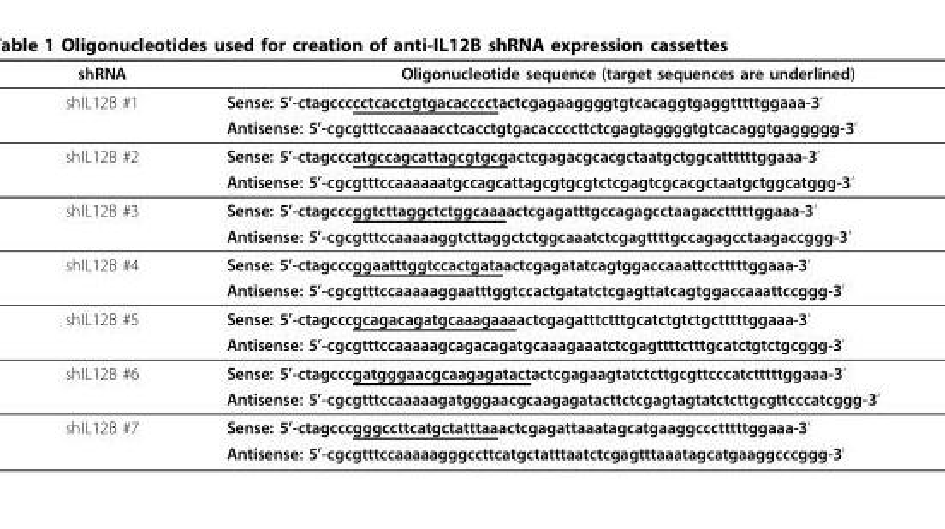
<table><thead><tr><td>shRNA</td><td>Oligonucleotide sequence (target sequences are underlined)</td></tr></thead><tbody><tr><td rowspan="2">shIL12B #1</td><td>Sense: 5’-ctagccccctcacctgtgacacccctactcgagaaggggtgtcacaggtgaggtttttggaaa-3’</td></tr><tr><td>Antisense: 5’-cgcgtttccaaaaacctcacctgtgacaccccttctcgagtaggggtgtcacaggtgaggggg-3’</td></tr><tr><td rowspan="2">shIL12B #2</td><td>Sense: 5’-ctagcccatgccagcattagcgtgcgactcgagacgcacgctaatgctggcattttttggaaa-3’</td></tr><tr><td>Antisense: 5’-cgcgtttccaaaaaatgccagcattagcgtgcgtctcgagtcgcacgctaatgctggcatggg-3’</td></tr><tr><td rowspan="2">shIL12B #3</td><td>Sense: 5’-ctagcccggtcttaggctctggcaaaactcgagatttgccagagcctaagacctttttggaaa-3’</td></tr><tr><td>Antisense: 5’-cgcgtttccaaaaaggtcttaggctctggcaaatctcgagttttgccagagcctaagaccggg-3’</td></tr><tr><td rowspan="2">shIL12B #4</td><td>Sense: 5’-ctagcccggaatttggtccactgataactcgagatatcagtggaccaaattcctttttggaaa-3’</td></tr><tr><td>Antisense: 5’-cgcgtttccaaaaaggaatttggtccactgatatctcgagttatcagtggaccaaattccggg-3’</td></tr><tr><td rowspan="2">shIL12B #5</td><td>Sense: 5’-ctagcccgcagacagatgcaaagaaaactcgagatttctttgcatctgtctgctttttggaaa-3’</td></tr><tr><td>Antisense: 5’-cgcgtttccaaaaagcagacagatgcaaagaaatctcgagttttctttgcatctgtctgcggg-3’</td></tr><tr><td rowspan="2">shIL12B #6</td><td>Sense: 5’-ctagcccgatgggaacgcaagagatactactcgagaagtatctcttgcgttcccatctttttggaaa-3’</td></tr><tr><td>Antisense: 5’-cgcgtttccaaaaagatgggaacgcaagagatacttctcgagtagtatctcttgcgttcccatcggg-3’</td></tr><tr><td rowspan="2">shIL12B #7</td><td>Sense: 5’-ctagcccgggccttcatgctatttaaactcgagattaaatagcatgaaggccctttttggaaa-3’</td></tr><tr><td>Antisense: 5’-cgcgtttccaaaaagggccttcatgctatttaatctcgagtttaaatagcatgaaggcccggg-3’</td></tr></tbody></table>